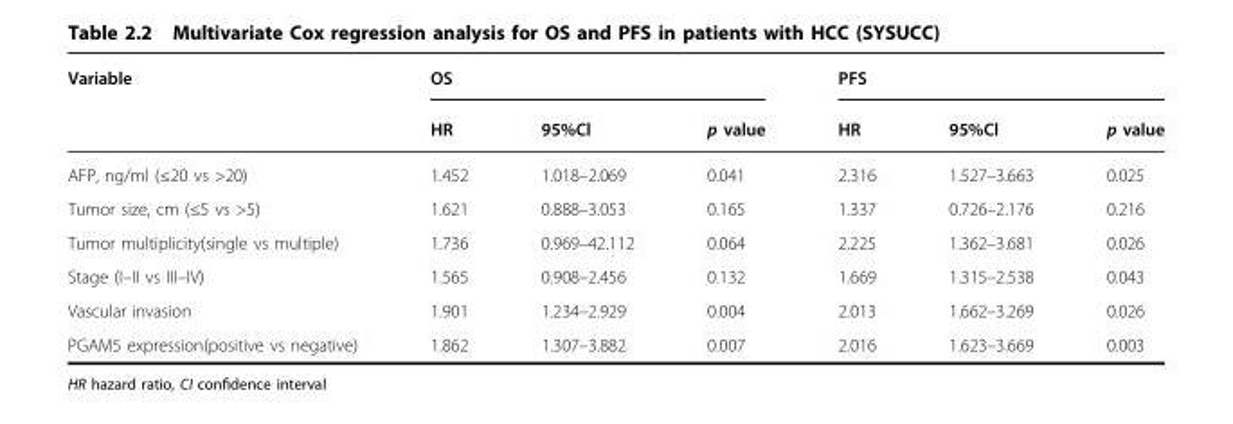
<table><thead><tr><td rowspan="2">Variable</td><td colspan="3">OS</td><td colspan="3">PFS</td></tr><tr><td>HR</td><td>95%Cl</td><td>p value</td><td>HR</td><td>95%Cl</td><td>p value</td></tr></thead><tbody><tr><td>AFP, ng/ml (≤20 vs &gt;20)</td><td>1.452</td><td>1.018–2.069</td><td>0.041</td><td>2.316</td><td>1.527–3.663</td><td>0.025</td></tr><tr><td>Tumor size, cm (≤5 vs &gt;5)</td><td>1.621</td><td>0.888–3.053</td><td>0.165</td><td>1.337</td><td>0.726–2.176</td><td>0.216</td></tr><tr><td>Tumor multiplicity(single vs multiple)</td><td>1.736</td><td>0.969–42.112</td><td>0.064</td><td>2.225</td><td>1.362–3.681</td><td>0.026</td></tr><tr><td>Stage (I–II vs III–IV)</td><td>1.565</td><td>0.908–2.456</td><td>0.132</td><td>1.669</td><td>1.315–2.538</td><td>0.043</td></tr><tr><td>Vascular invasion</td><td>1.901</td><td>1.234–2.929</td><td>0.004</td><td>2.013</td><td>1.662–3.269</td><td>0.026</td></tr><tr><td>PGAM5 expression(positive vs negative)</td><td>1.862</td><td>1.307–3.882</td><td>0.007</td><td>2.016</td><td>1.623–3.669</td><td>0.003</td></tr></tbody></table>